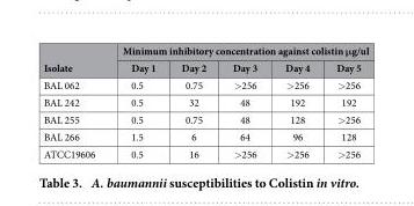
<table><thead><tr><td rowspan="2">Isolate</td><td colspan="5">Minimum inhibitory concentration against colistin μg/ul</td></tr><tr><td>Day 1</td><td>Day 2</td><td>Day 3</td><td>Day 4</td><td>Day 5</td></tr></thead><tbody><tr><td>BAL 062</td><td>0.5</td><td>0.75</td><td>&gt; 256</td><td>&gt; 256</td><td>&gt; 256</td></tr><tr><td>BAL 242</td><td>0.5</td><td>32</td><td>48</td><td>192</td><td>192</td></tr><tr><td>BAL 255</td><td>0.5</td><td>0.75</td><td>48</td><td>128</td><td>&gt; 256</td></tr><tr><td>BAL 266</td><td>1.5</td><td>6</td><td>64</td><td>96</td><td>128</td></tr><tr><td>ATCC19606</td><td>0.5</td><td>16</td><td>&gt; 256</td><td>&gt; 256</td><td>&gt; 256</td></tr></tbody></table>